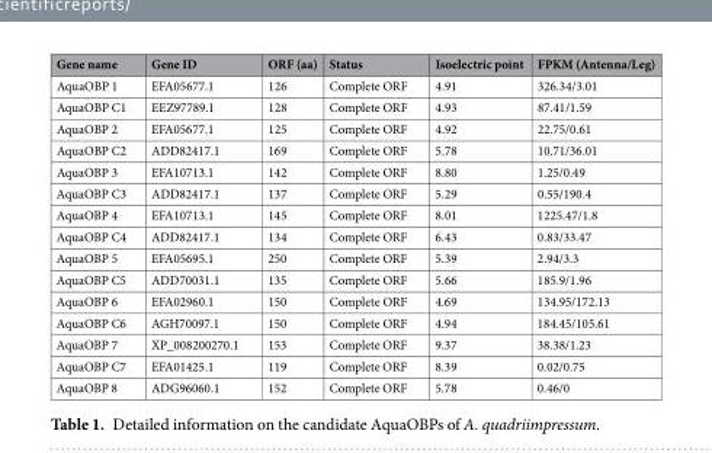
<table><thead><tr><td>Gene name</td><td>Gene ID</td><td>ORF (aa)</td><td>Status</td><td>Isoelectric point</td><td>FPKM (Antenna/Leg)</td></tr></thead><tbody><tr><td>AquaOBP 1</td><td>EFA05677.1</td><td>126</td><td>Complete ORF</td><td>4.91</td><td>326.34/3.01</td></tr><tr><td>AquaOBP C1</td><td>EEZ97789.1</td><td>128</td><td>Complete ORF</td><td>4.93</td><td>87.41/1.59</td></tr><tr><td>AquaOBP 2</td><td>EFA05677.1</td><td>125</td><td>Complete ORF</td><td>4.92</td><td>22.75/0.61</td></tr><tr><td>AquaOBP C2</td><td>ADD82417.1</td><td>169</td><td>Complete ORF</td><td>5.78</td><td>10.71/36.01</td></tr><tr><td>AquaOBP 3</td><td>EFA10713.1</td><td>142</td><td>Complete ORF</td><td>8.80</td><td>1.25/0.49</td></tr><tr><td>AquaOBP C3</td><td>ADD82417.1</td><td>137</td><td>Complete ORF</td><td>5.29</td><td>0.55/190.4</td></tr><tr><td>AquaOBP 4</td><td>EFA10713.1</td><td>145</td><td>Complete ORF</td><td>8.01</td><td>1225.47/1.8</td></tr><tr><td>AquaOBP C4</td><td>ADD82417.1</td><td>134</td><td>Complete ORF</td><td>6.43</td><td>0.83/33.47</td></tr><tr><td>AquaOBP 5</td><td>EFA05695.1</td><td>250</td><td>Complete ORF</td><td>5.39</td><td>2.94/3.3</td></tr><tr><td>AquaOBP C5</td><td>ADD70031.1</td><td>135</td><td>Complete ORF</td><td>5.66</td><td>185.9/1.96</td></tr><tr><td>AquaOBP 6</td><td>EFA02960.1</td><td>150</td><td>Complete ORF</td><td>4.69</td><td>134.95/172.13</td></tr><tr><td>AquaOBP C6</td><td>AGH70097.1</td><td>150</td><td>Complete ORF</td><td>4.94</td><td>184.45/105.61</td></tr><tr><td>AquaOBP 7</td><td>XP_008200270.1</td><td>153</td><td>Complete ORF</td><td>9.37</td><td>38.38/1.23</td></tr><tr><td>AquaOBP C7</td><td>EFA01425.1</td><td>119</td><td>Complete ORF</td><td>8.39</td><td>0.02/0.75</td></tr><tr><td>AquaOBP 8</td><td>ADG96060.1</td><td>152</td><td>Complete ORF</td><td>5.78</td><td>0.46/0</td></tr></tbody></table>